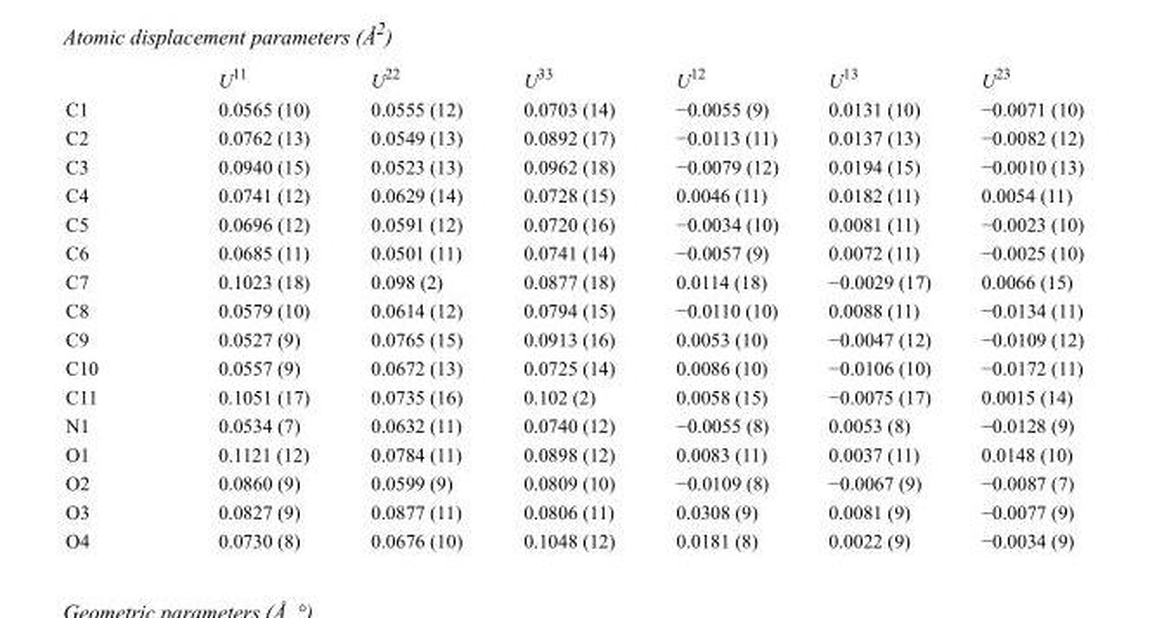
<table><thead><tr><td></td><td>U<sup>11</sup></td><td>U<sup>22</sup></td><td>U<sup>33</sup></td><td>U<sup>12</sup></td><td>U<sup>13</sup></td><td>U<sup>23</sup></td></tr></thead><tbody><tr><td>C1</td><td>0.0565 (10)</td><td>0.0555 (12)</td><td>0.0703 (14)</td><td>−0.0055 (9)</td><td>0.0131 (10)</td><td>−0.0071 (10)</td></tr><tr><td>C2</td><td>0.0762 (13)</td><td>0.0549 (13)</td><td>0.0892 (17)</td><td>−0.0113 (11)</td><td>0.0137 (13)</td><td>−0.0082 (12)</td></tr><tr><td>C3</td><td>0.0940 (15)</td><td>0.0523 (13)</td><td>0.0962 (18)</td><td>−0.0079 (12)</td><td>0.0194 (15)</td><td>−0.0010 (13)</td></tr><tr><td>C4</td><td>0.0741 (12)</td><td>0.0629 (14)</td><td>0.0728 (15)</td><td>0.0046 (11)</td><td>0.0182 (11)</td><td>0.0054 (11)</td></tr><tr><td>C5</td><td>0.0696 (12)</td><td>0.0591 (12)</td><td>0.0720 (16)</td><td>−0.0034 (10)</td><td>0.0081 (11)</td><td>−0.0023 (10)</td></tr><tr><td>C6</td><td>0.0685 (11)</td><td>0.0501 (11)</td><td>0.0741 (14)</td><td>−0.0057 (9)</td><td>0.0072 (11)</td><td>−0.0025 (10)</td></tr><tr><td>C7</td><td>0.1023 (18)</td><td>0.098 (2)</td><td>0.0877 (18)</td><td>0.0114 (18)</td><td>−0.0029 (17)</td><td>0.0066 (15)</td></tr><tr><td>C8</td><td>0.0579 (10)</td><td>0.0614 (12)</td><td>0.0794 (15)</td><td>−0.0110 (10)</td><td>0.0088 (11)</td><td>−0.0134 (11)</td></tr><tr><td>C9</td><td>0.0527 (9)</td><td>0.0765 (15)</td><td>0.0913 (16)</td><td>0.0053 (10)</td><td>−0.0047 (12)</td><td>−0.0109 (12)</td></tr><tr><td>C10</td><td>0.0557 (9)</td><td>0.0672 (13)</td><td>0.0725 (14)</td><td>0.0086 (10)</td><td>−0.0106 (10)</td><td>−0.0172 (11)</td></tr><tr><td>C11</td><td>0.1051 (17)</td><td>0.0735 (16)</td><td>0.102 (2)</td><td>0.0058 (15)</td><td>−0.0075 (17)</td><td>0.0015 (14)</td></tr><tr><td>N1</td><td>0.0534 (7)</td><td>0.0632 (11)</td><td>0.0740 (12)</td><td>−0.0055 (8)</td><td>0.0053 (8)</td><td>−0.0128 (9)</td></tr><tr><td>O1</td><td>0.1121 (12)</td><td>0.0784 (11)</td><td>0.0898 (12)</td><td>0.0083 (11)</td><td>0.0037 (11)</td><td>0.0148 (10)</td></tr><tr><td>O2</td><td>0.0860 (9)</td><td>0.0599 (9)</td><td>0.0809 (10)</td><td>−0.0109 (8)</td><td>−0.0067 (9)</td><td>−0.0087 (7)</td></tr><tr><td>O3</td><td>0.0827 (9)</td><td>0.0877 (11)</td><td>0.0806 (11)</td><td>0.0308 (9)</td><td>0.0081 (9)</td><td>−0.0077 (9)</td></tr><tr><td>O4</td><td>0.0730 (8)</td><td>0.0676 (10)</td><td>0.1048 (12)</td><td>0.0181 (8)</td><td>0.0022 (9)</td><td>−0.0034 (9)</td></tr></tbody></table>